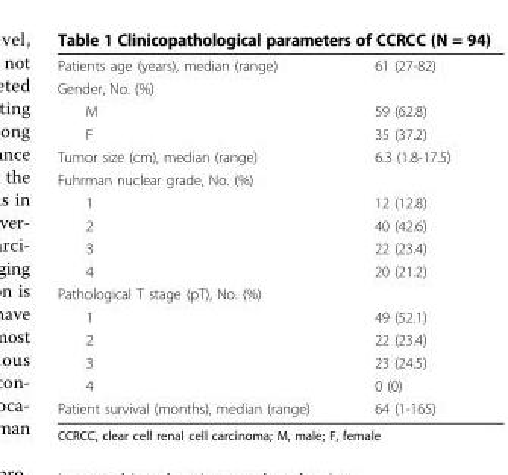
<table><tbody><tr><td>Patients age (years), median (range)</td><td>61 (27-82)</td></tr><tr><td colspan="2">Gender, No. (%)</td></tr><tr><td>M</td><td>59 (62.8)</td></tr><tr><td>F</td><td>35 (37.2)</td></tr><tr><td>Tumor size (cm), median (range)</td><td>6.3 (1.8-17.5)</td></tr><tr><td colspan="2">Fuhrman nuclear grade, No. (%)</td></tr><tr><td>1</td><td>12 (12.8)</td></tr><tr><td>2</td><td>40 (42.6)</td></tr><tr><td>3</td><td>22 (23.4)</td></tr><tr><td>4</td><td>20 (21.2)</td></tr><tr><td colspan="2">Pathological T stage (pT), No. (%)</td></tr><tr><td>1</td><td>49 (52.1)</td></tr><tr><td>2</td><td>22 (23.4)</td></tr><tr><td>3</td><td>23 (24.5)</td></tr><tr><td>4</td><td>0 (0)</td></tr><tr><td>Patient survival (months), median (range)</td><td>64 (1-165)</td></tr></tbody></table>